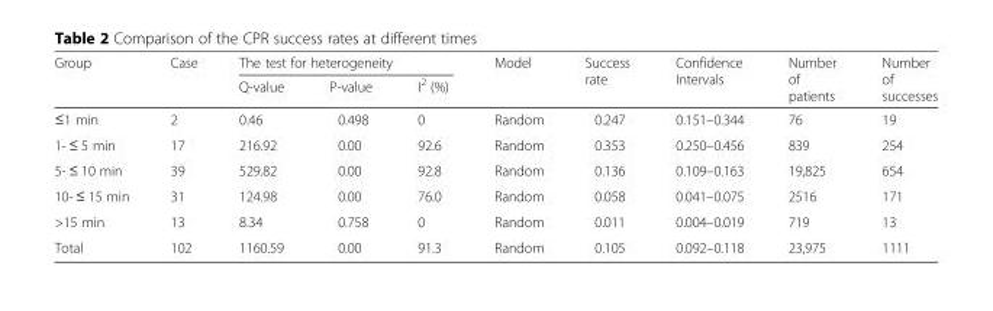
<table><thead><tr><td rowspan="2">Group</td><td rowspan="2">Case</td><td colspan="3">The test for heterogeneity</td><td rowspan="2">Model</td><td rowspan="2">Success rate</td><td rowspan="2">Confidence Intervals</td><td rowspan="2">Number of patients</td><td rowspan="2">Number of successes</td></tr><tr><td>Q-value</td><td>P-value</td><td>I<sup>2</sup> (%)</td></tr></thead><tbody><tr><td>≤1 min</td><td>2</td><td>0.46</td><td>0.498</td><td>0</td><td>Random</td><td>0.247</td><td>0.151–0.344</td><td>76</td><td>19</td></tr><tr><td>1- ≤ 5 min</td><td>17</td><td>216.92</td><td>0.00</td><td>92.6</td><td>Random</td><td>0.353</td><td>0.250–0.456</td><td>839</td><td>254</td></tr><tr><td>5- ≤ 10 min</td><td>39</td><td>529.82</td><td>0.00</td><td>92.8</td><td>Random</td><td>0.136</td><td>0.109–0.163</td><td>19,825</td><td>654</td></tr><tr><td>10- ≤ 15 min</td><td>31</td><td>124.98</td><td>0.00</td><td>76.0</td><td>Random</td><td>0.058</td><td>0.041–0.075</td><td>2516</td><td>171</td></tr><tr><td>&gt;15 min</td><td>13</td><td>8.34</td><td>0.758</td><td>0</td><td>Random</td><td>0.011</td><td>0.004–0.019</td><td>719</td><td>13</td></tr><tr><td>Total</td><td>102</td><td>1160.59</td><td>0.00</td><td>91.3</td><td>Random</td><td>0.105</td><td>0.092–0.118</td><td>23,975</td><td>1111</td></tr></tbody></table>